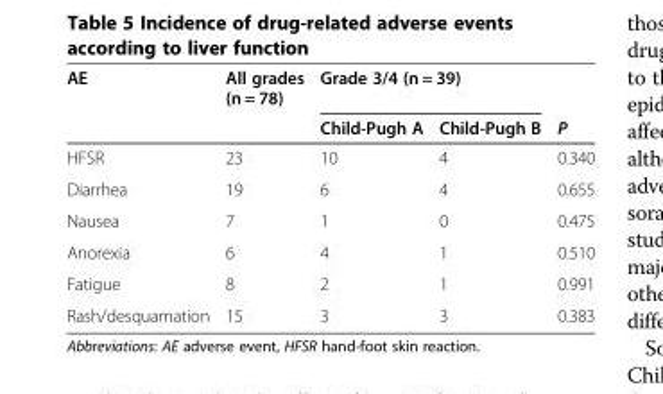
<table><thead><tr><td rowspan="2">AE</td><td rowspan="2">All grades (n = 78)</td><td colspan="2">Grade 3/4 (n = 39)</td><td rowspan="2">P</td></tr><tr><td>Child-Pugh A</td><td>Child-Pugh B</td></tr></thead><tbody><tr><td>HFSR</td><td>23</td><td>10</td><td>4</td><td>0.340</td></tr><tr><td>Diarrhea</td><td>19</td><td>6</td><td>4</td><td>0.655</td></tr><tr><td>Nausea</td><td>7</td><td>1</td><td>0</td><td>0.475</td></tr><tr><td>Anorexia</td><td>6</td><td>4</td><td>1</td><td>0.510</td></tr><tr><td>Fatigue</td><td>8</td><td>2</td><td>1</td><td>0.991</td></tr><tr><td>Rash/desquamation</td><td>15</td><td>3</td><td>3</td><td>0.383</td></tr></tbody></table>